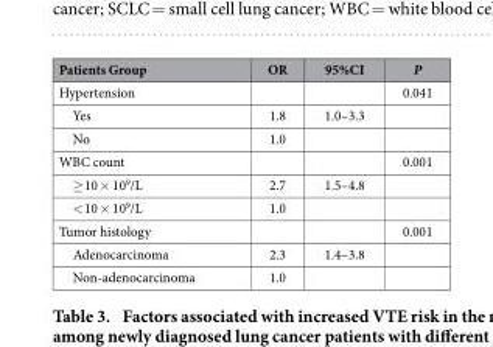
<table><thead><tr><td>Patients Group</td><td>OR</td><td>95%CI</td><td>P</td></tr></thead><tbody><tr><td>Hypertension</td><td></td><td></td><td>0.041</td></tr><tr><td>Yes</td><td>1.8</td><td>1.0–3.3</td><td></td></tr><tr><td>No</td><td>1.0</td><td></td><td></td></tr><tr><td>WBC count</td><td></td><td></td><td>0.001</td></tr><tr><td>≥ 10 × 10<sup>9</sup>/L</td><td>2.7</td><td>1.5–4.8</td><td></td></tr><tr><td>&lt; 10 × 10<sup>9</sup>/L</td><td>1.0</td><td></td><td></td></tr><tr><td>Tumor histology</td><td></td><td></td><td>0.001</td></tr><tr><td>Adenocarcinoma</td><td>2.3</td><td>1.4–3.8</td><td></td></tr><tr><td>Non-adenocarcinoma</td><td>1.0</td><td></td><td></td></tr></tbody></table>